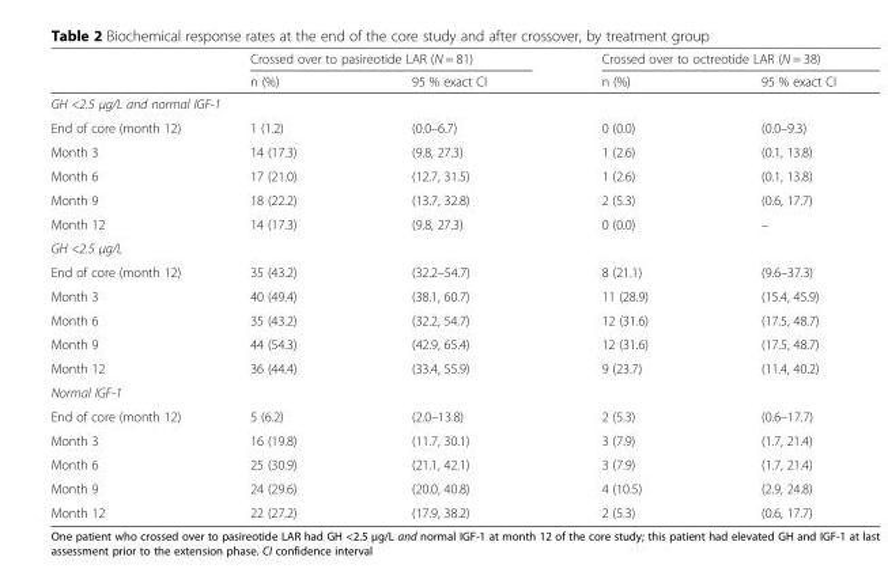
<table><thead><tr><td rowspan="2"></td><td colspan="2">Crossed over to pasireotide LAR (N = 81)</td><td colspan="2">Crossed over to octreotide LAR (N = 38)</td></tr><tr><td>n (%)</td><td>95 % exact CI</td><td>n (%)</td><td>95 % exact CI</td></tr></thead><tbody><tr><td colspan="5">GH &lt;2.5 μg/L and normal IGF-1</td></tr><tr><td>End of core (month 12)</td><td>1 (1.2)</td><td>(0.0–6.7)</td><td>0 (0.0)</td><td>(0.0–9.3)</td></tr><tr><td>Month 3</td><td>14 (17.3)</td><td>(9.8, 27.3)</td><td>1 (2.6)</td><td>(0.1, 13.8)</td></tr><tr><td>Month 6</td><td>17 (21.0)</td><td>(12.7, 31.5)</td><td>1 (2.6)</td><td>(0.1, 13.8)</td></tr><tr><td>Month 9</td><td>18 (22.2)</td><td>(13.7, 32.8)</td><td>2 (5.3)</td><td>(0.6, 17.7)</td></tr><tr><td>Month 12</td><td>14 (17.3)</td><td>(9.8, 27.3)</td><td>0 (0.0)</td><td>–</td></tr><tr><td colspan="5">GH &lt;2.5 μg/L</td></tr><tr><td>End of core (month 12)</td><td>35 (43.2)</td><td>(32.2–54.7)</td><td>8 (21.1)</td><td>(9.6–37.3)</td></tr><tr><td>Month 3</td><td>40 (49.4)</td><td>(38.1, 60.7)</td><td>11 (28.9)</td><td>(15.4, 45.9)</td></tr><tr><td>Month 6</td><td>35 (43.2)</td><td>(32.2, 54.7)</td><td>12 (31.6)</td><td>(17.5, 48.7)</td></tr><tr><td>Month 9</td><td>44 (54.3)</td><td>(42.9, 65.4)</td><td>12 (31.6)</td><td>(17.5, 48.7)</td></tr><tr><td>Month 12</td><td>36 (44.4)</td><td>(33.4, 55.9)</td><td>9 (23.7)</td><td>(11.4, 40.2)</td></tr><tr><td colspan="5">Normal IGF-1</td></tr><tr><td>End of core (month 12)</td><td>5 (6.2)</td><td>(2.0–13.8)</td><td>2 (5.3)</td><td>(0.6–17.7)</td></tr><tr><td>Month 3</td><td>16 (19.8)</td><td>(11.7, 30.1)</td><td>3 (7.9)</td><td>(1.7, 21.4)</td></tr><tr><td>Month 6</td><td>25 (30.9)</td><td>(21.1, 42.1)</td><td>3 (7.9)</td><td>(1.7, 21.4)</td></tr><tr><td>Month 9</td><td>24 (29.6)</td><td>(20.0, 40.8)</td><td>4 (10.5)</td><td>(2.9, 24.8)</td></tr><tr><td>Month 12</td><td>22 (27.2)</td><td>(17.9, 38.2)</td><td>2 (5.3)</td><td>(0.6, 17.7)</td></tr></tbody></table>